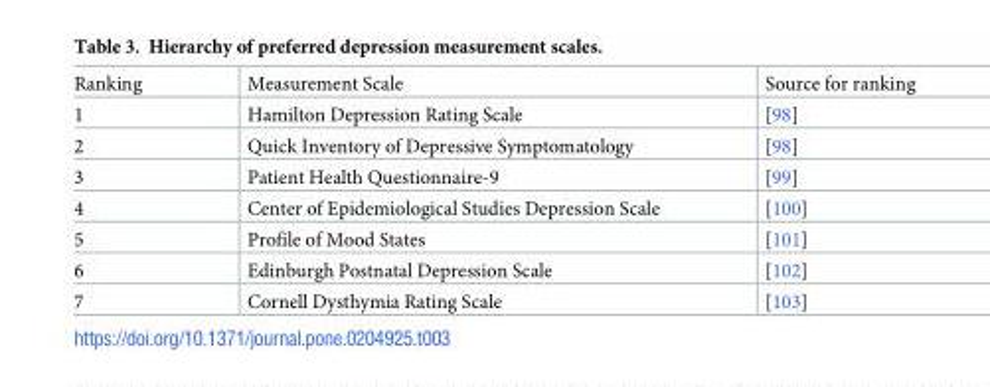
<table><tbody><tr><td>Ranking</td><td>Measurement Scale</td><td>Source for ranking</td></tr><tr><td>1</td><td>Hamilton Depression Rating Scale</td><td>[98]</td></tr><tr><td>2</td><td>Quick Inventory of Depressive Symptomatology</td><td>[98]</td></tr><tr><td>3</td><td>Patient Health Questionnaire-9</td><td>[99]</td></tr><tr><td>4</td><td>Center of Epidemiological Studies Depression Scale</td><td>[100]</td></tr><tr><td>5</td><td>Profile of Mood States</td><td>[101]</td></tr><tr><td>6</td><td>Edinburgh Postnatal Depression Scale</td><td>[102]</td></tr><tr><td>7</td><td>Cornell Dysthymia Rating Scale</td><td>[103]</td></tr></tbody></table>